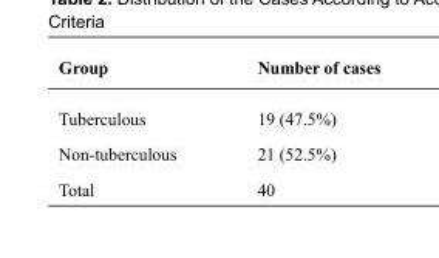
<table><thead><tr><td>Group</td><td>Number of cases</td></tr></thead><tbody><tr><td>Tuberculous</td><td>19 (47.5%)</td></tr><tr><td>Non-tuberculous</td><td>21 (52.5%)</td></tr><tr><td>Total</td><td>40</td></tr></tbody></table>